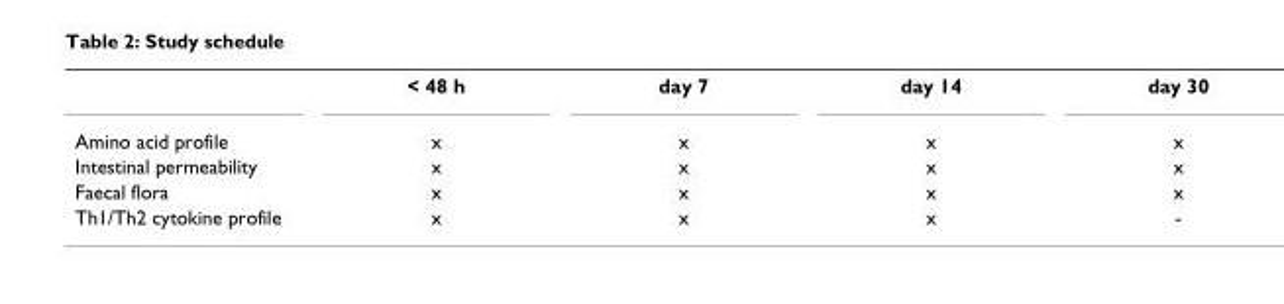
<table><thead><tr><td></td><td>&lt; 48 h</td><td>day 7</td><td>day 14</td><td>day 30</td></tr></thead><tbody><tr><td>Amino acid profile</td><td>x</td><td>x</td><td>x</td><td>x</td></tr><tr><td>Intestinal permeability</td><td>x</td><td>x</td><td>x</td><td>x</td></tr><tr><td>Faecal flora</td><td>x</td><td>x</td><td>x</td><td>x</td></tr><tr><td>Th1/Th2 cytokine profile</td><td>x</td><td>x</td><td>x</td><td>-</td></tr></tbody></table>